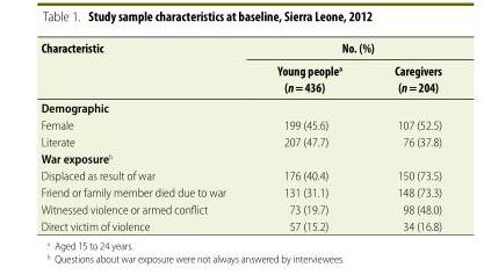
<table><thead><tr><td rowspan="2">Characteristic</td><td colspan="2">No. (%)</td></tr><tr><td>Young people<sup>a</sup> (n = 436)</td><td>Caregivers (n = 204)</td></tr></thead><tbody><tr><td colspan="3">Demographic</td></tr><tr><td>Female</td><td>199 (45.6)</td><td>107 (52.5)</td></tr><tr><td>Literate</td><td>207 (47.7)</td><td>76 (37.8)</td></tr><tr><td colspan="3">War exposure<sup>b</sup></td></tr><tr><td>Displaced as result of war</td><td>176 (40.4)</td><td>150 (73.5)</td></tr><tr><td>Friend or family member died due to war</td><td>131 (31.1)</td><td>148 (73.3)</td></tr><tr><td>Witnessed violence or armed conflict</td><td>73 (19.7)</td><td>98 (48.0)</td></tr><tr><td>Direct victim of violence</td><td>57 (15.2)</td><td>34 (16.8)</td></tr></tbody></table>